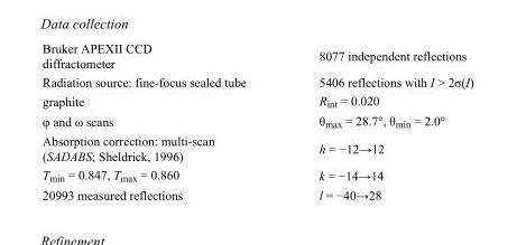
<table><tbody><tr><td>Bruker APEXII CCD diffractometer</td><td>8077 independent reflections</td></tr><tr><td>Radiation source: fine-focus sealed tube</td><td>5406 reflections with I &gt; 2σ(I)</td></tr><tr><td>graphite</td><td>R<sub>int</sub> = 0.020</td></tr><tr><td>φ and ω scans</td><td>θ<sub>max</sub> = 28.7°, θ<sub>min</sub> = 2.0°</td></tr><tr><td>Absorption correction: multi-scan (SADABS; Sheldrick, 1996)</td><td>h = −12→12</td></tr><tr><td>T<sub>min</sub> = 0.847, T<sub>max</sub> = 0.860</td><td>k = −14→14</td></tr><tr><td>20993 measured reflections</td><td>l = −40→28</td></tr></tbody></table>